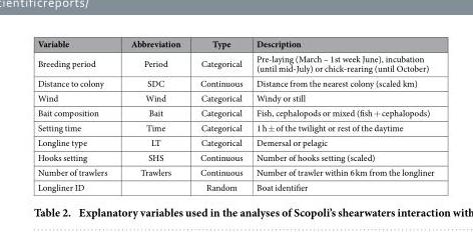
<table><thead><tr><td>Variable</td><td>Abbreviation</td><td>Type</td><td>Description</td></tr></thead><tbody><tr><td>Breeding period</td><td>Period</td><td>Categorical</td><td>Pre-laying (March – 1st week June), incubation (until mid-July) or chick-rearing (until October)</td></tr><tr><td>Distance to colony</td><td>SDC</td><td>Continuous</td><td>Distance from the nearest colony (scaled km)</td></tr><tr><td>Wind</td><td>Wind</td><td>Categorical</td><td>Windy or still</td></tr><tr><td>Bait composition</td><td>Bait</td><td>Categorical</td><td>Fish, cephalopods or mixed (fish + cephalopods)</td></tr><tr><td>Setting time</td><td>Time</td><td>Categorical</td><td>1 h ± of the twilight or rest of the daytime</td></tr><tr><td>Longline type</td><td>LT</td><td>Categorical</td><td>Demersal or pelagic</td></tr><tr><td>Hooks setting</td><td>SHS</td><td>Continuous</td><td>Number of hooks setting (scaled)</td></tr><tr><td>Number of trawlers</td><td>Trawlers</td><td>Continuous</td><td>Number of trawler within 6 km from the longliner</td></tr><tr><td>Longliner ID</td><td></td><td>Random</td><td>Boat identifier</td></tr></tbody></table>